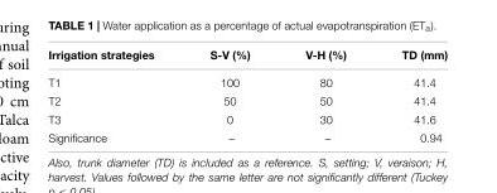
<table><thead><tr><td>Irrigation strategies</td><td>S-V (%)</td><td>V-H (%)</td><td>TD (mm)</td></tr></thead><tbody><tr><td>T1</td><td>100</td><td>80</td><td>41.4</td></tr><tr><td>T2</td><td>50</td><td>50</td><td>41.4</td></tr><tr><td>T3</td><td>0</td><td>30</td><td>41.6</td></tr><tr><td>Significance</td><td>–</td><td>–</td><td>0.94</td></tr></tbody></table>